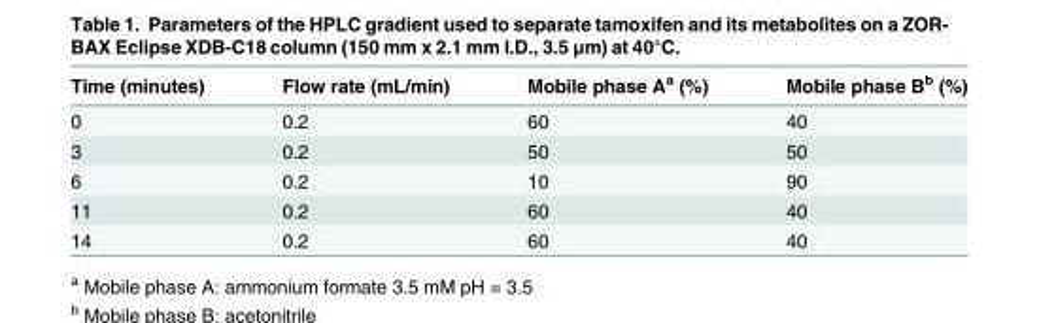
<table><thead><tr><td>Time (minutes)</td><td>Flow rate (mL/min)</td><td>Mobile phase A<sup>a</sup> (%)</td><td>Mobile phase B<sup>b</sup> (%)</td></tr></thead><tbody><tr><td>0</td><td>0.2</td><td>60</td><td>40</td></tr><tr><td>3</td><td>0.2</td><td>50</td><td>50</td></tr><tr><td>6</td><td>0.2</td><td>10</td><td>90</td></tr><tr><td>11</td><td>0.2</td><td>60</td><td>40</td></tr><tr><td>14</td><td>0.2</td><td>60</td><td>40</td></tr></tbody></table>